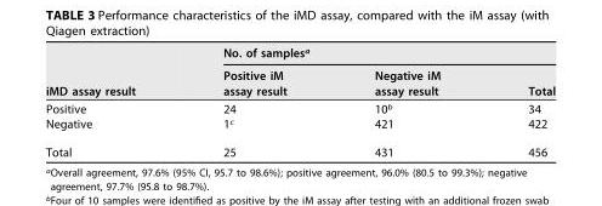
<table><thead><tr><td rowspan="2">iMD assay result</td><td colspan="3">No. of samples<sup>a</sup></td></tr><tr><td>Positive iM assay result</td><td>Negative iM assay result</td><td>Total</td></tr></thead><tbody><tr><td>Positive</td><td>24</td><td>10<sup>b</sup></td><td>34</td></tr><tr><td>Negative</td><td>1<sup>c</sup></td><td>421</td><td>422</td></tr><tr><td>Total</td><td>25</td><td>431</td><td>456</td></tr></tbody></table>